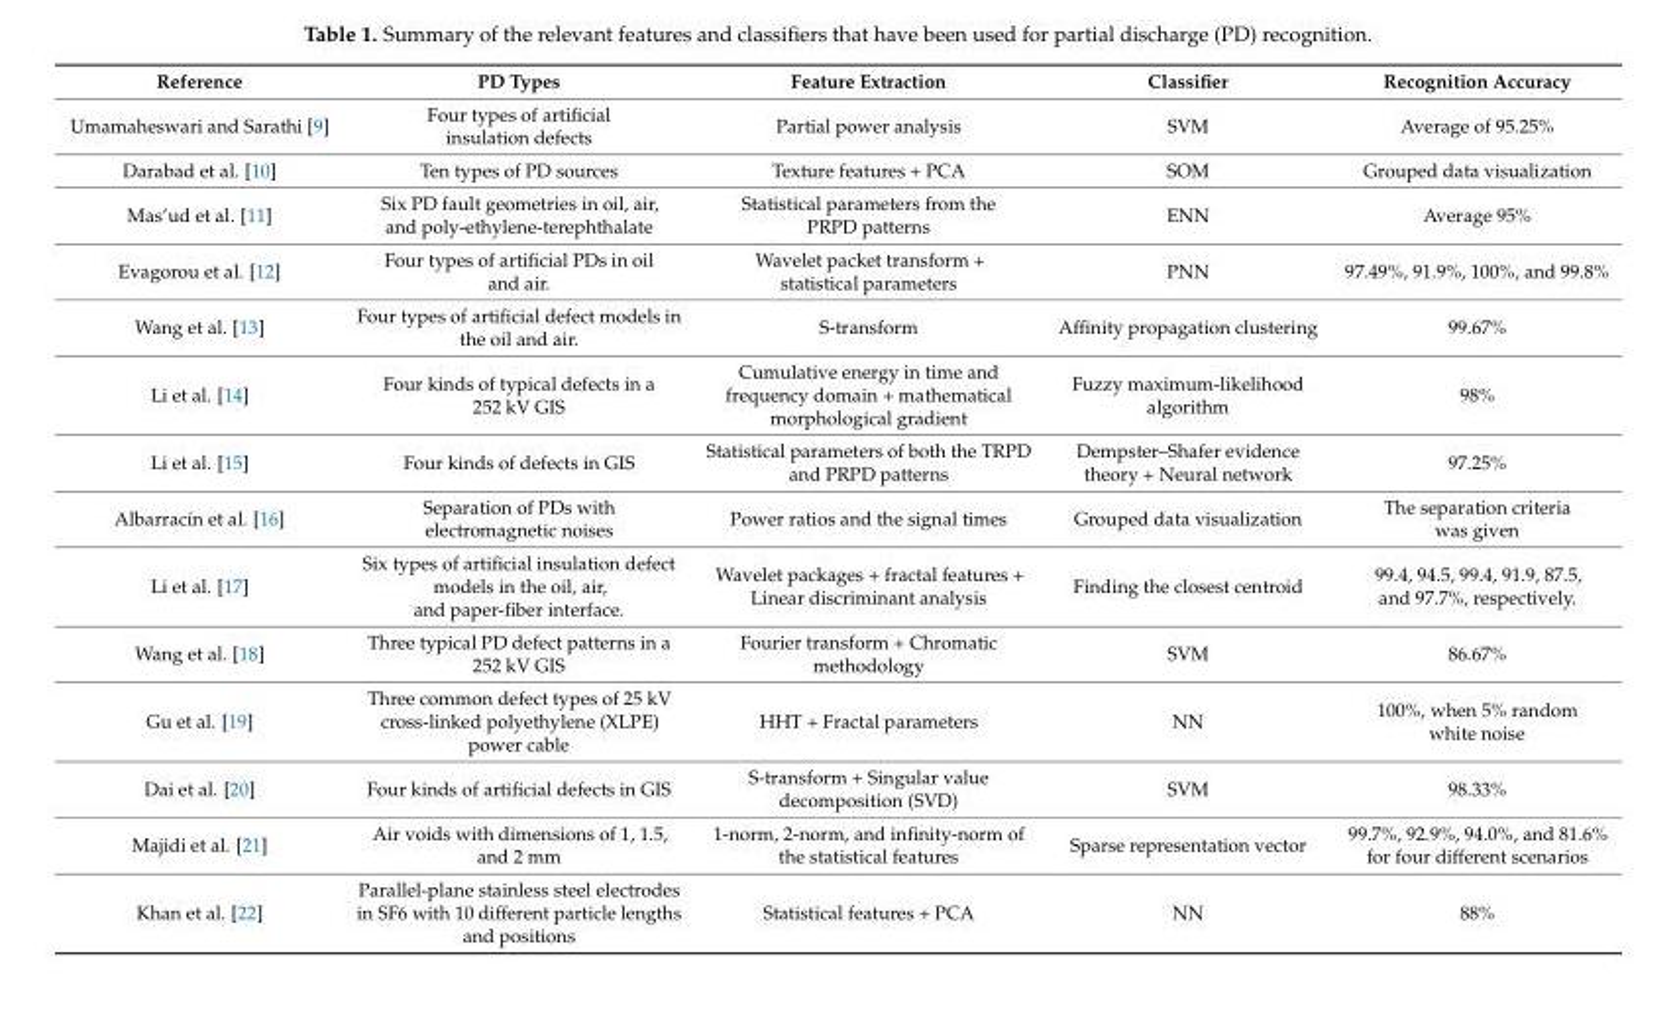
<table><thead><tr><td>Reference</td><td>PD Types</td><td>Feature Extraction</td><td>Classifier</td><td>Recognition Accuracy</td></tr></thead><tbody><tr><td>Umamaheswari and Sarathi [9]</td><td>Four types of artificial insulation defects</td><td>Partial power analysis</td><td>SVM</td><td>Average of 95.25%</td></tr><tr><td>Darabad et al. [10]</td><td>Ten types of PD sources</td><td>Texture features + PCA</td><td>SOM</td><td>Grouped data visualization</td></tr><tr><td>Mas’ud et al. [11]</td><td>Six PD fault geometries in oil, air, and poly-ethylene-terephthalate</td><td>Statistical parameters from the PRPD patterns</td><td>ENN</td><td>Average 95%</td></tr><tr><td>Evagorou et al. [12]</td><td>Four types of artificial PDs in oil and air.</td><td>Wavelet packet transform + statistical parameters</td><td>PNN</td><td>97.49%, 91.9%, 100%, and 99.8%</td></tr><tr><td>Wang et al. [13]</td><td>Four types of artificial defect models in the oil and air.</td><td>S-transform</td><td>Affinity propagation clustering</td><td>99.67%</td></tr><tr><td>Li et al. [14]</td><td>Four kinds of typical defects in a 252 kV GIS</td><td>Cumulative energy in time and frequency domain + mathematical morphological gradient</td><td>Fuzzy maximum-likelihood algorithm</td><td>98%</td></tr><tr><td>Li et al. [15]</td><td>Four kinds of defects in GIS</td><td>Statistical parameters of both the TRPD and PRPD patterns</td><td>Dempster–Shafer evidence theory + Neural network</td><td>97.25%</td></tr><tr><td>Albarracín et al. [16]</td><td>Separation of PDs with electromagnetic noises</td><td>Power ratios and the signal times</td><td>Grouped data visualization</td><td>The separation criteria was given</td></tr><tr><td>Li et al. [17]</td><td>Six types of artificial insulation defect models in the oil, air, and paper-fiber interface.</td><td>Wavelet packages + fractal features + Linear discriminant analysis</td><td>Finding the closest centroid</td><td>99.4, 94.5, 99.4, 91.9, 87.5, and 97.7%, respectively.</td></tr><tr><td>Wang et al. [18]</td><td>Three typical PD defect patterns in a 252 kV GIS</td><td>Fourier transform + Chromatic methodology</td><td>SVM</td><td>86.67%</td></tr><tr><td>Gu et al. [19]</td><td>Three common defect types of 25 kV cross-linked polyethylene (XLPE) power cable</td><td>HHT + Fractal parameters</td><td>NN</td><td>100%, when 5% random white noise</td></tr><tr><td>Dai et al. [20]</td><td>Four kinds of artificial defects in GIS</td><td>S-transform + Singular value decomposition (SVD)</td><td>SVM</td><td>98.33%</td></tr><tr><td>Majidi et al. [21]</td><td>Air voids with dimensions of 1, 1.5, and 2 mm</td><td>1-norm, 2-norm, and infinity-norm of the statistical features</td><td>Sparse representation vector</td><td>99.7%, 92.9%, 94.0%, and 81.6% for four different scenarios</td></tr><tr><td>Khan et al. [22]</td><td>Parallel-plane stainless steel electrodes in SF6 with 10 different particle lengths and positions</td><td>Statistical features + PCA</td><td>NN</td><td>88%</td></tr></tbody></table>